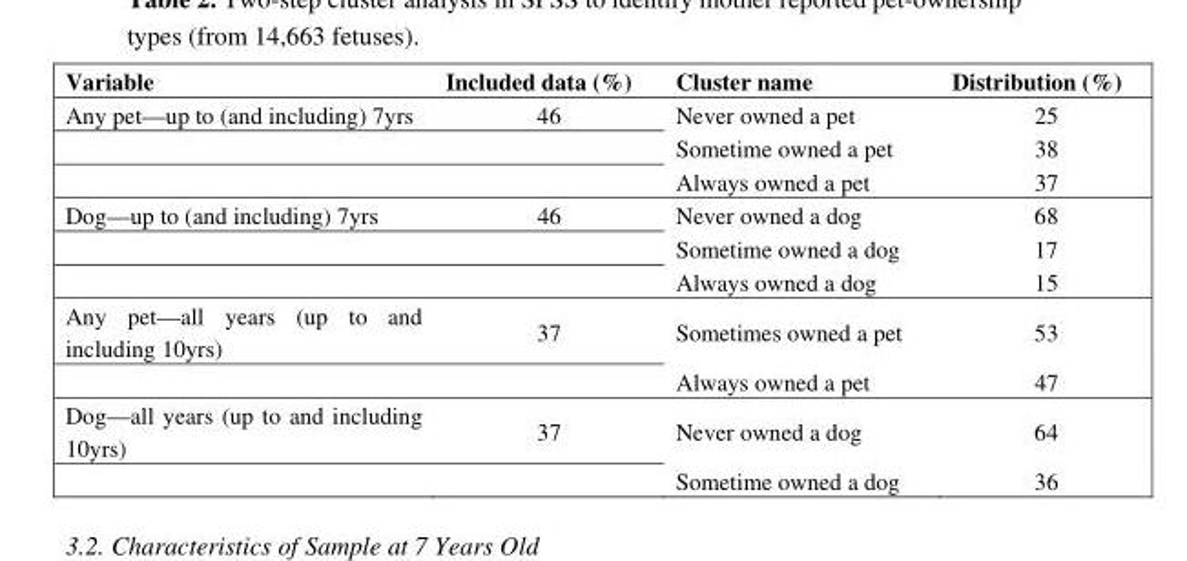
<table><thead><tr><td>Variable</td><td>Included data (%)</td><td>Cluster name</td><td>Distribution (%)</td></tr></thead><tbody><tr><td rowspan="3">Any pet—up to (and including) 7yrs</td><td>46</td><td>Never owned a pet</td><td>25</td></tr><tr><td></td><td>Sometime owned a pet</td><td>38</td></tr><tr><td></td><td>Always owned a pet</td><td>37</td></tr><tr><td rowspan="3">Dog—up to (and including) 7yrs</td><td>46</td><td>Never owned a dog</td><td>68</td></tr><tr><td></td><td>Sometime owned a dog</td><td>17</td></tr><tr><td></td><td>Always owned a dog</td><td>15</td></tr><tr><td rowspan="2">Any pet—all years (up to and including 10yrs)</td><td>37</td><td>Sometimes owned a pet</td><td>53</td></tr><tr><td></td><td>Always owned a pet</td><td>47</td></tr><tr><td rowspan="2">Dog—all years (up to and including 10yrs)</td><td>37</td><td>Never owned a dog</td><td>64</td></tr><tr><td></td><td>Sometime owned a dog</td><td>36</td></tr></tbody></table>